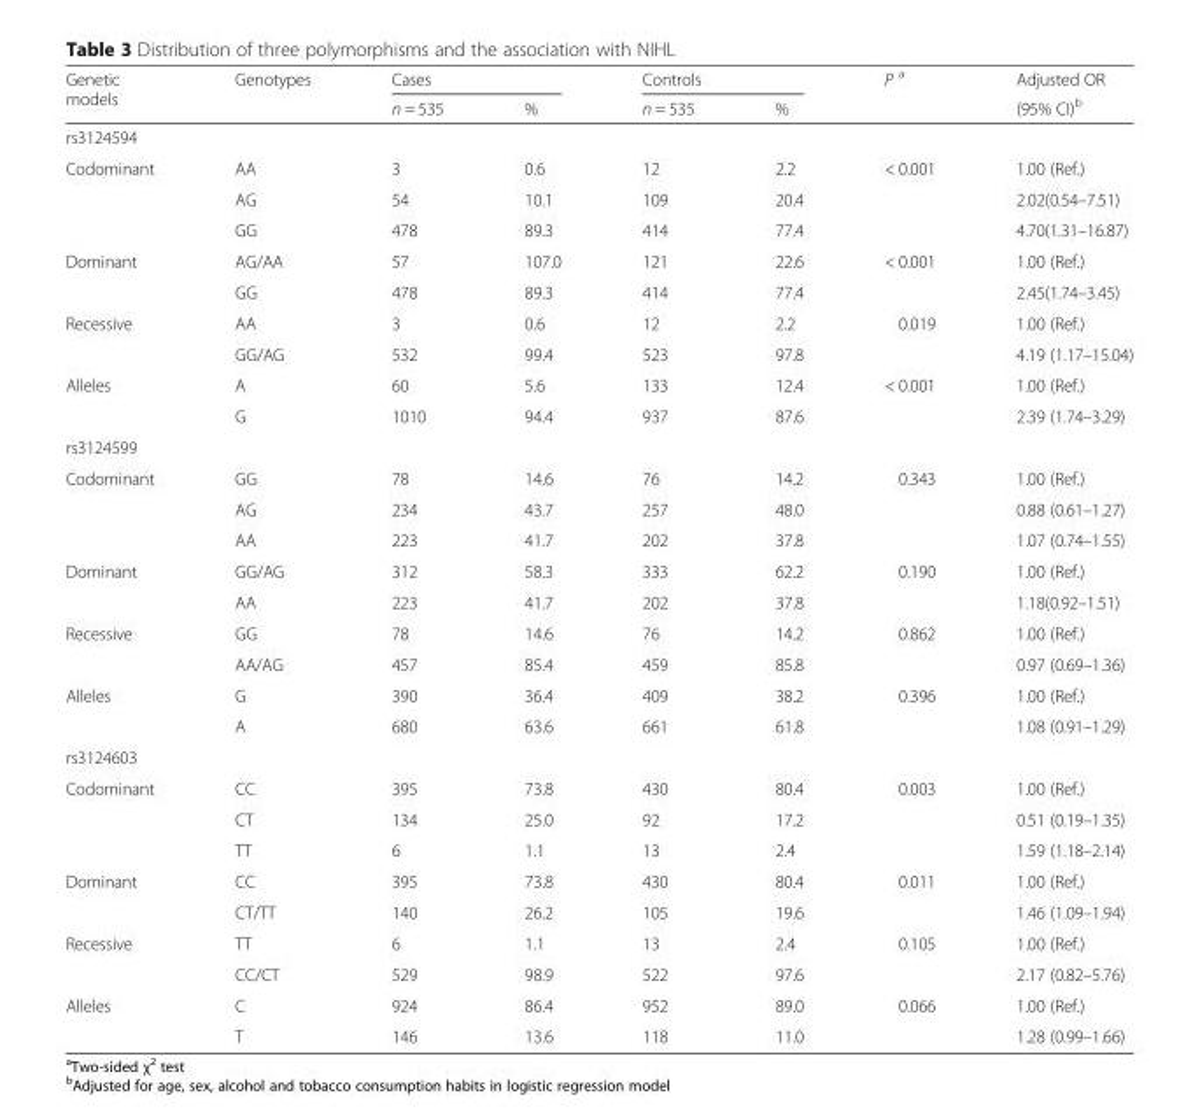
<table><thead><tr><td rowspan="2">Genetic models</td><td rowspan="2">Genotypes</td><td colspan="2">Cases</td><td colspan="2">Controls</td><td rowspan="2">P <sup>a</sup></td><td rowspan="2">Adjusted OR (95% CI)<sup>b</sup></td></tr><tr><td>n = 535</td><td>%</td><td>n = 535</td><td>%</td></tr></thead><tbody><tr><td colspan="8">rs3124594</td></tr><tr><td rowspan="3">Codominant</td><td>AA</td><td>3</td><td>0.6</td><td>12</td><td>2.2</td><td>&lt; 0.001</td><td>1.00 (Ref.)</td></tr><tr><td>AG</td><td>54</td><td>10.1</td><td>109</td><td>20.4</td><td></td><td>2.02(0.54–7.51)</td></tr><tr><td>GG</td><td>478</td><td>89.3</td><td>414</td><td>77.4</td><td></td><td>4.70(1.31–16.87)</td></tr><tr><td rowspan="2">Dominant</td><td>AG/AA</td><td>57</td><td>107.0</td><td>121</td><td>22.6</td><td>&lt; 0.001</td><td>1.00 (Ref.)</td></tr><tr><td>GG</td><td>478</td><td>89.3</td><td>414</td><td>77.4</td><td></td><td>2.45(1.74–3.45)</td></tr><tr><td rowspan="2">Recessive</td><td>AA</td><td>3</td><td>0.6</td><td>12</td><td>2.2</td><td>0.019</td><td>1.00 (Ref.)</td></tr><tr><td>GG/AG</td><td>532</td><td>99.4</td><td>523</td><td>97.8</td><td></td><td>4.19 (1.17–15.04)</td></tr><tr><td rowspan="2">Alleles</td><td>A</td><td>60</td><td>5.6</td><td>133</td><td>12.4</td><td>&lt; 0.001</td><td>1.00 (Ref.)</td></tr><tr><td>G</td><td>1010</td><td>94.4</td><td>937</td><td>87.6</td><td></td><td>2.39 (1.74–3.29)</td></tr><tr><td colspan="8">rs3124599</td></tr><tr><td rowspan="3">Codominant</td><td>GG</td><td>78</td><td>14.6</td><td>76</td><td>14.2</td><td>0.343</td><td>1.00 (Ref.)</td></tr><tr><td>AG</td><td>234</td><td>43.7</td><td>257</td><td>48.0</td><td></td><td>0.88 (0.61–1.27)</td></tr><tr><td>AA</td><td>223</td><td>41.7</td><td>202</td><td>37.8</td><td></td><td>1.07 (0.74–1.55)</td></tr><tr><td rowspan="2">Dominant</td><td>GG/AG</td><td>312</td><td>58.3</td><td>333</td><td>62.2</td><td>0.190</td><td>1.00 (Ref.)</td></tr><tr><td>AA</td><td>223</td><td>41.7</td><td>202</td><td>37.8</td><td></td><td>1.18(0.92–1.51)</td></tr><tr><td rowspan="2">Recessive</td><td>GG</td><td>78</td><td>14.6</td><td>76</td><td>14.2</td><td>0.862</td><td>1.00 (Ref.)</td></tr><tr><td>AA/AG</td><td>457</td><td>85.4</td><td>459</td><td>85.8</td><td></td><td>0.97 (0.69–1.36)</td></tr><tr><td rowspan="2">Alleles</td><td>G</td><td>390</td><td>36.4</td><td>409</td><td>38.2</td><td>0.396</td><td>1.00 (Ref.)</td></tr><tr><td>A</td><td>680</td><td>63.6</td><td>661</td><td>61.8</td><td></td><td>1.08 (0.91–1.29)</td></tr><tr><td colspan="8">rs3124603</td></tr><tr><td rowspan="3">Codominant</td><td>CC</td><td>395</td><td>73.8</td><td>430</td><td>80.4</td><td>0.003</td><td>1.00 (Ref.)</td></tr><tr><td>CT</td><td>134</td><td>25.0</td><td>92</td><td>17.2</td><td></td><td>0.51 (0.19–1.35)</td></tr><tr><td>TT</td><td>6</td><td>1.1</td><td>13</td><td>2.4</td><td></td><td>1.59 (1.18–2.14)</td></tr><tr><td rowspan="2">Dominant</td><td>CC</td><td>395</td><td>73.8</td><td>430</td><td>80.4</td><td>0.011</td><td>1.00 (Ref.)</td></tr><tr><td>CT/TT</td><td>140</td><td>26.2</td><td>105</td><td>19.6</td><td></td><td>1.46 (1.09–1.94)</td></tr><tr><td rowspan="2">Recessive</td><td>TT</td><td>6</td><td>1.1</td><td>13</td><td>2.4</td><td>0.105</td><td>1.00 (Ref.)</td></tr><tr><td>CC/CT</td><td>529</td><td>98.9</td><td>522</td><td>97.6</td><td></td><td>2.17 (0.82–5.76)</td></tr><tr><td rowspan="2">Alleles</td><td>C</td><td>924</td><td>86.4</td><td>952</td><td>89.0</td><td>0.066</td><td>1.00 (Ref.)</td></tr><tr><td>T</td><td>146</td><td>13.6</td><td>118</td><td>11.0</td><td></td><td>1.28 (0.99–1.66)</td></tr></tbody></table>